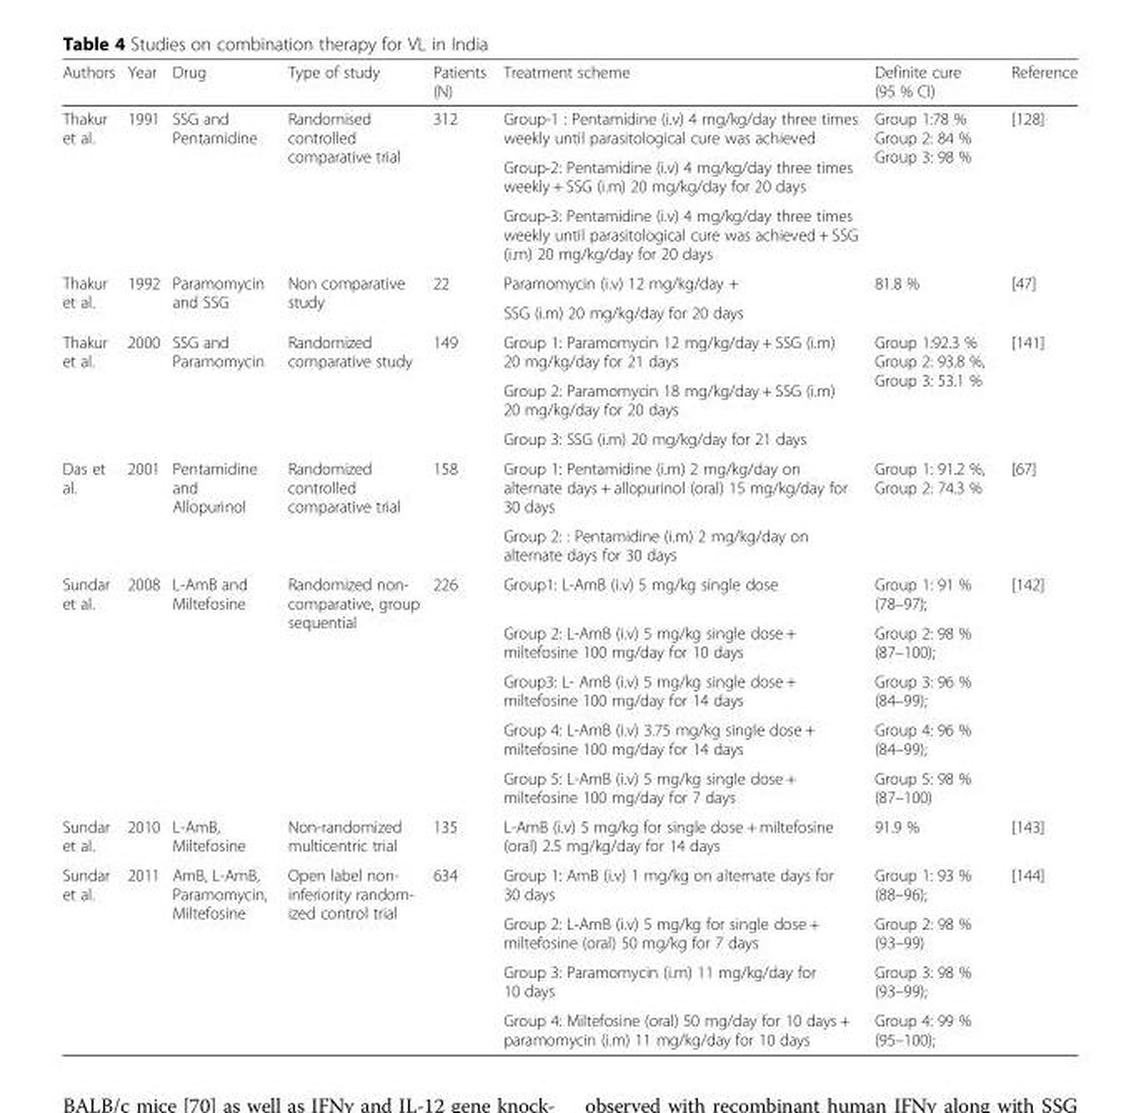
<table><thead><tr><td>Authors</td><td>Year</td><td>Drug</td><td>Type of study</td><td>Patients (N)</td><td>Treatment scheme</td><td>Definite cure (95 % CI)</td><td>Reference</td></tr></thead><tbody><tr><td rowspan="3">Thakur et al.</td><td rowspan="3">1991</td><td rowspan="3">SSG and Pentamidine</td><td rowspan="3">Randomised controlled comparative trial</td><td rowspan="3">312</td><td>Group-1 : Pentamidine (i.v) 4 mg/kg/day three times weekly until parasitological cure was achieved</td><td rowspan="3">Group 1:78 % Group 2: 84 % Group 3: 98 %</td><td rowspan="3">[128]</td></tr><tr><td>Group-2: Pentamidine (i.v) 4 mg/kg/day three times weekly + SSG (i.m) 20 mg/kg/day for 20 days</td></tr><tr><td>Group-3: Pentamidine (i.v) 4 mg/kg/day three times weekly until parasitological cure was achieved + SSG (i.m) 20 mg/kg/day for 20 days</td></tr><tr><td rowspan="2">Thakur et al.</td><td rowspan="2">1992</td><td rowspan="2">Paramomycin and SSG</td><td rowspan="2">Non comparative study</td><td rowspan="2">22</td><td>Paramomycin (i.v) 12 mg/kg/day +</td><td rowspan="2">81.8 %</td><td rowspan="2">[47]</td></tr><tr><td>SSG (i.m) 20 mg/kg/day for 20 days</td></tr><tr><td rowspan="3">Thakur et al.</td><td rowspan="3">2000</td><td rowspan="3">SSG and Paramomycin</td><td rowspan="3">Randomized comparative study</td><td rowspan="3">149</td><td>Group 1: Paramomycin 12 mg/kg/day + SSG (i.m) 20 mg/kg/day for 21 days</td><td rowspan="3">Group 1:92.3 % Group 2: 93.8 %, Group 3: 53.1 %</td><td rowspan="3">[141]</td></tr><tr><td>Group 2: Paramomycin 18 mg/kg/day + SSG (i.m) 20 mg/kg/day for 20 days</td></tr><tr><td>Group 3: SSG (i.m) 20 mg/kg/day for 21 days</td></tr><tr><td rowspan="2">Das et al.</td><td rowspan="2">2001</td><td rowspan="2">Pentamidine and Allopurinol</td><td rowspan="2">Randomized controlled comparative trial</td><td rowspan="2">158</td><td>Group 1: Pentamidine (i.m) 2 mg/kg/day on alternate days + allopurinol (oral) 15 mg/kg/day for 30 days</td><td rowspan="2">Group 1: 91.2 %, Group 2: 74.3 %</td><td rowspan="2">[67]</td></tr><tr><td>Group 2: : Pentamidine (i.m) 2 mg/kg/day on alternate days for 30 days</td></tr><tr><td rowspan="5">Sundar et al.</td><td rowspan="5">2008</td><td rowspan="5">L-AmB and Miltefosine</td><td rowspan="5">Randomized non- comparative, group sequential</td><td rowspan="5">226</td><td>Group1: L-AmB (i.v) 5 mg/kg single dose</td><td>Group 1: 91 % (78–97);</td><td rowspan="5">[142]</td></tr><tr><td>Group 2: L-AmB (i.v) 5 mg/kg single dose + miltefosine 100 mg/day for 10 days</td><td>Group 2: 98 % (87–100);</td></tr><tr><td>Group3: L- AmB (i.v) 5 mg/kg single dose + miltefosine 100 mg/day for 14 days</td><td>Group 3: 96 % (84–99);</td></tr><tr><td>Group 4: L-AmB (i.v) 3.75 mg/kg single dose + miltefosine 100 mg/day for 14 days</td><td>Group 4: 96 % (84–99);</td></tr><tr><td>Group 5: L-AmB (i.v) 5 mg/kg single dose + miltefosine 100 mg/day for 7 days</td><td>Group 5: 98 % (87–100)</td></tr><tr><td>Sundar et al.</td><td>2010</td><td>L-AmB, Miltefosine</td><td>Non-randomized multicentric trial</td><td>135</td><td>L-AmB (i.v) 5 mg/kg for single dose + miltefosine (oral) 2.5 mg/kg/day for 14 days</td><td>91.9 %</td><td>[143]</td></tr><tr><td rowspan="4">Sundar et al.</td><td rowspan="4">2011</td><td rowspan="4">AmB, L-AmB, Paramomycin, Miltefosine</td><td rowspan="4">Open label non- inferiority random- ized control trial</td><td rowspan="4">634</td><td>Group 1: AmB (i.v) 1 mg/kg on alternate days for 30 days</td><td>Group 1: 93 % (88–96);</td><td rowspan="4">[144]</td></tr><tr><td>Group 2: L-AmB (i.v) 5 mg/kg for single dose + miltefosine (oral) 50 mg/kg for 7 days</td><td>Group 2: 98 % (93–99)</td></tr><tr><td>Group 3: Paramomycin (i.m) 11 mg/kg/day for 10 days</td><td>Group 3: 98 % (93–99);</td></tr><tr><td>Group 4: Miltefosine (oral) 50 mg/day for 10 days + paramomycin (i.m) 11 mg/kg/day for 10 days</td><td>Group 4: 99 % (95–100);</td></tr></tbody></table>